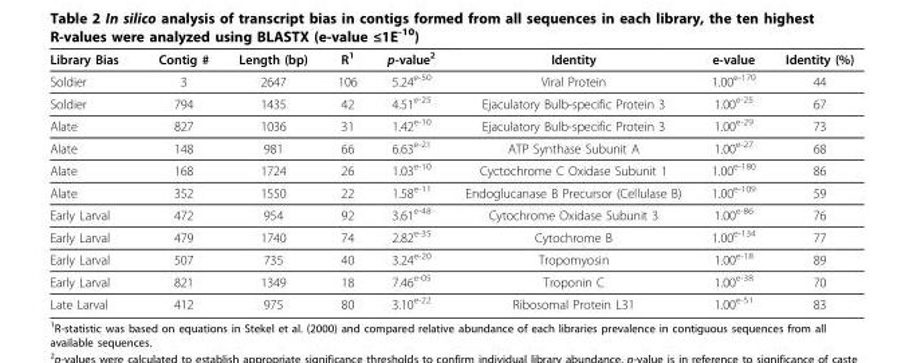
<table><thead><tr><td>Library Bias</td><td>Contig #</td><td>Length (bp)</td><td>R<sup>1</sup></td><td>p-value<sup>2</sup></td><td>Identity</td><td>e-value</td><td>Identity (%)</td></tr></thead><tbody><tr><td>Soldier</td><td>3</td><td>2647</td><td>106</td><td>5.24<sup>e-50</sup></td><td>Viral Protein</td><td>1.00<sup>e-170</sup></td><td>44</td></tr><tr><td>Soldier</td><td>794</td><td>1435</td><td>42</td><td>4.51<sup>e-25</sup></td><td>Ejaculatory Bulb-specific Protein 3</td><td>1.00<sup>e-25</sup></td><td>67</td></tr><tr><td>Alate</td><td>827</td><td>1036</td><td>31</td><td>1.42<sup>e-10</sup></td><td>Ejaculatory Bulb-specific Protein 3</td><td>1.00<sup>e-29</sup></td><td>73</td></tr><tr><td>Alate</td><td>148</td><td>981</td><td>66</td><td>6.63<sup>e-21</sup></td><td>ATP Synthase Subunit A</td><td>1.00<sup>e-27</sup></td><td>68</td></tr><tr><td>Alate</td><td>168</td><td>1724</td><td>26</td><td>1.03<sup>e-10</sup></td><td>Cyctochrome C Oxidase Subunit 1</td><td>1.00<sup>e-180</sup></td><td>86</td></tr><tr><td>Alate</td><td>352</td><td>1550</td><td>22</td><td>1.58<sup>e-11</sup></td><td>Endoglucanase B Precursor (Cellulase B)</td><td>1.00<sup>e-109</sup></td><td>59</td></tr><tr><td>Early Larval</td><td>472</td><td>954</td><td>92</td><td>3.61<sup>e-48</sup></td><td>Cytochrome Oxidase Subunit 3</td><td>1.00<sup>e-86</sup></td><td>76</td></tr><tr><td>Early Larval</td><td>479</td><td>1740</td><td>74</td><td>2.82<sup>e-35</sup></td><td>Cytochrome B</td><td>1.00<sup>e-134</sup></td><td>77</td></tr><tr><td>Early Larval</td><td>507</td><td>735</td><td>40</td><td>3.24<sup>e-20</sup></td><td>Tropomyosin</td><td>1.00<sup>e-18</sup></td><td>89</td></tr><tr><td>Early Larval</td><td>821</td><td>1349</td><td>18</td><td>7.46<sup>e-05</sup></td><td>Troponin C</td><td>1.00<sup>e-38</sup></td><td>70</td></tr><tr><td>Late Larval</td><td>412</td><td>975</td><td>80</td><td>3.10<sup>e-22</sup></td><td>Ribosomal Protein L31</td><td>1.00<sup>e-51</sup></td><td>83</td></tr></tbody></table>